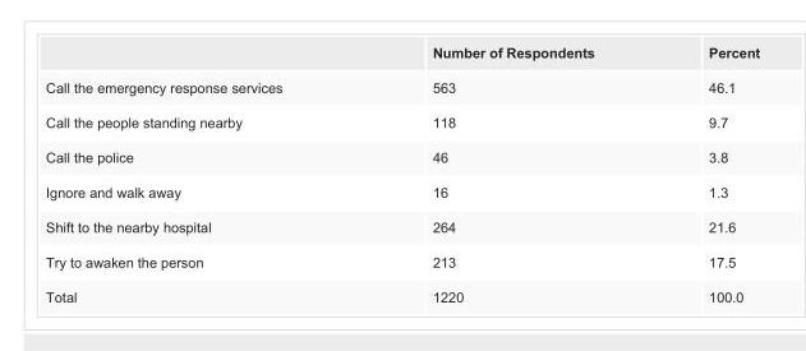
<table><thead><tr><td></td><td>Number of Respondents</td><td>Percent</td></tr></thead><tbody><tr><td>Call the emergency response services</td><td>563</td><td>46.1</td></tr><tr><td>Call the people standing nearby</td><td>118</td><td>9.7</td></tr><tr><td>Call the police</td><td>46</td><td>3.8</td></tr><tr><td>Ignore and walk away</td><td>16</td><td>1.3</td></tr><tr><td>Shift to the nearby hospital</td><td>264</td><td>21.6</td></tr><tr><td>Try to awaken the person</td><td>213</td><td>17.5</td></tr><tr><td>Total</td><td>1220</td><td>100.0</td></tr></tbody></table>